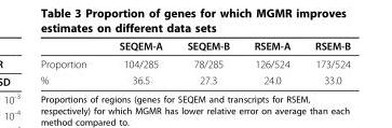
<table><thead><tr><td></td><td>SEQEM-A</td><td>SEQEM-B</td><td>RSEM-A</td><td>RSEM-B</td></tr></thead><tbody><tr><td>Proportion</td><td>104/285</td><td>78/285</td><td>126/524</td><td>173/524</td></tr><tr><td>%</td><td>36.5</td><td>27.3</td><td>24.0</td><td>33.0</td></tr></tbody></table>